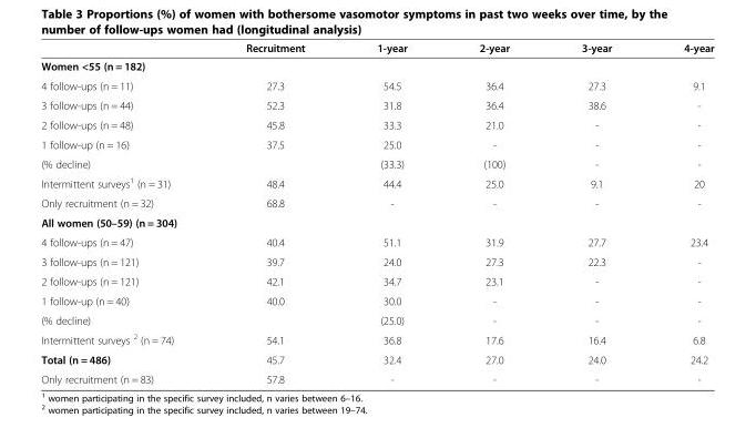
<table><thead><tr><td></td><td>Recruitment</td><td>1-year</td><td>2-year</td><td>3-year</td><td>4-year</td></tr></thead><tbody><tr><td colspan="6">Women &lt;55 (n = 182)</td></tr><tr><td>4 follow-ups (n = 11)</td><td>27.3</td><td>54.5</td><td>36.4</td><td>27.3</td><td>9.1</td></tr><tr><td>3 follow-ups (n = 44)</td><td>52.3</td><td>31.8</td><td>36.4</td><td>38.6</td><td>-</td></tr><tr><td>2 follow-ups (n = 48)</td><td>45.8</td><td>33.3</td><td>21.0</td><td>-</td><td>-</td></tr><tr><td>1 follow-up (n = 16)</td><td>37.5</td><td>25.0</td><td>-</td><td>-</td><td>-</td></tr><tr><td>(% decline)</td><td></td><td>(33.3)</td><td>(100)</td><td>-</td><td>-</td></tr><tr><td>Intermittent surveys<sup>1</sup> (n = 31)</td><td>48.4</td><td>44.4</td><td>25.0</td><td>9.1</td><td>20</td></tr><tr><td>Only recruitment (n = 32)</td><td>68.8</td><td>-</td><td>-</td><td>-</td><td>-</td></tr><tr><td colspan="6">All women (50–59) (n = 304)</td></tr><tr><td>4 follow-ups (n = 47)</td><td>40.4</td><td>51.1</td><td>31.9</td><td>27.7</td><td>23.4</td></tr><tr><td>3 follow-ups (n = 121)</td><td>39.7</td><td>24.0</td><td>27.3</td><td>22.3</td><td>-</td></tr><tr><td>2 follow-ups (n = 121)</td><td>42.1</td><td>34.7</td><td>23.1</td><td>-</td><td>-</td></tr><tr><td>1 follow-up (n = 40)</td><td>40.0</td><td>30.0</td><td>-</td><td>-</td><td>-</td></tr><tr><td>(% decline)</td><td></td><td>(25.0)</td><td>-</td><td>-</td><td>-</td></tr><tr><td>Intermittent surveys <sup>2</sup> (n = 74)</td><td>54.1</td><td>36.8</td><td>17.6</td><td>16.4</td><td>6.8</td></tr><tr><td>Total (n = 486)</td><td>45.7</td><td>32.4</td><td>27.0</td><td>24.0</td><td>24.2</td></tr><tr><td>Only recruitment (n = 83)</td><td>57.8</td><td>-</td><td>-</td><td>-</td><td>-</td></tr></tbody></table>